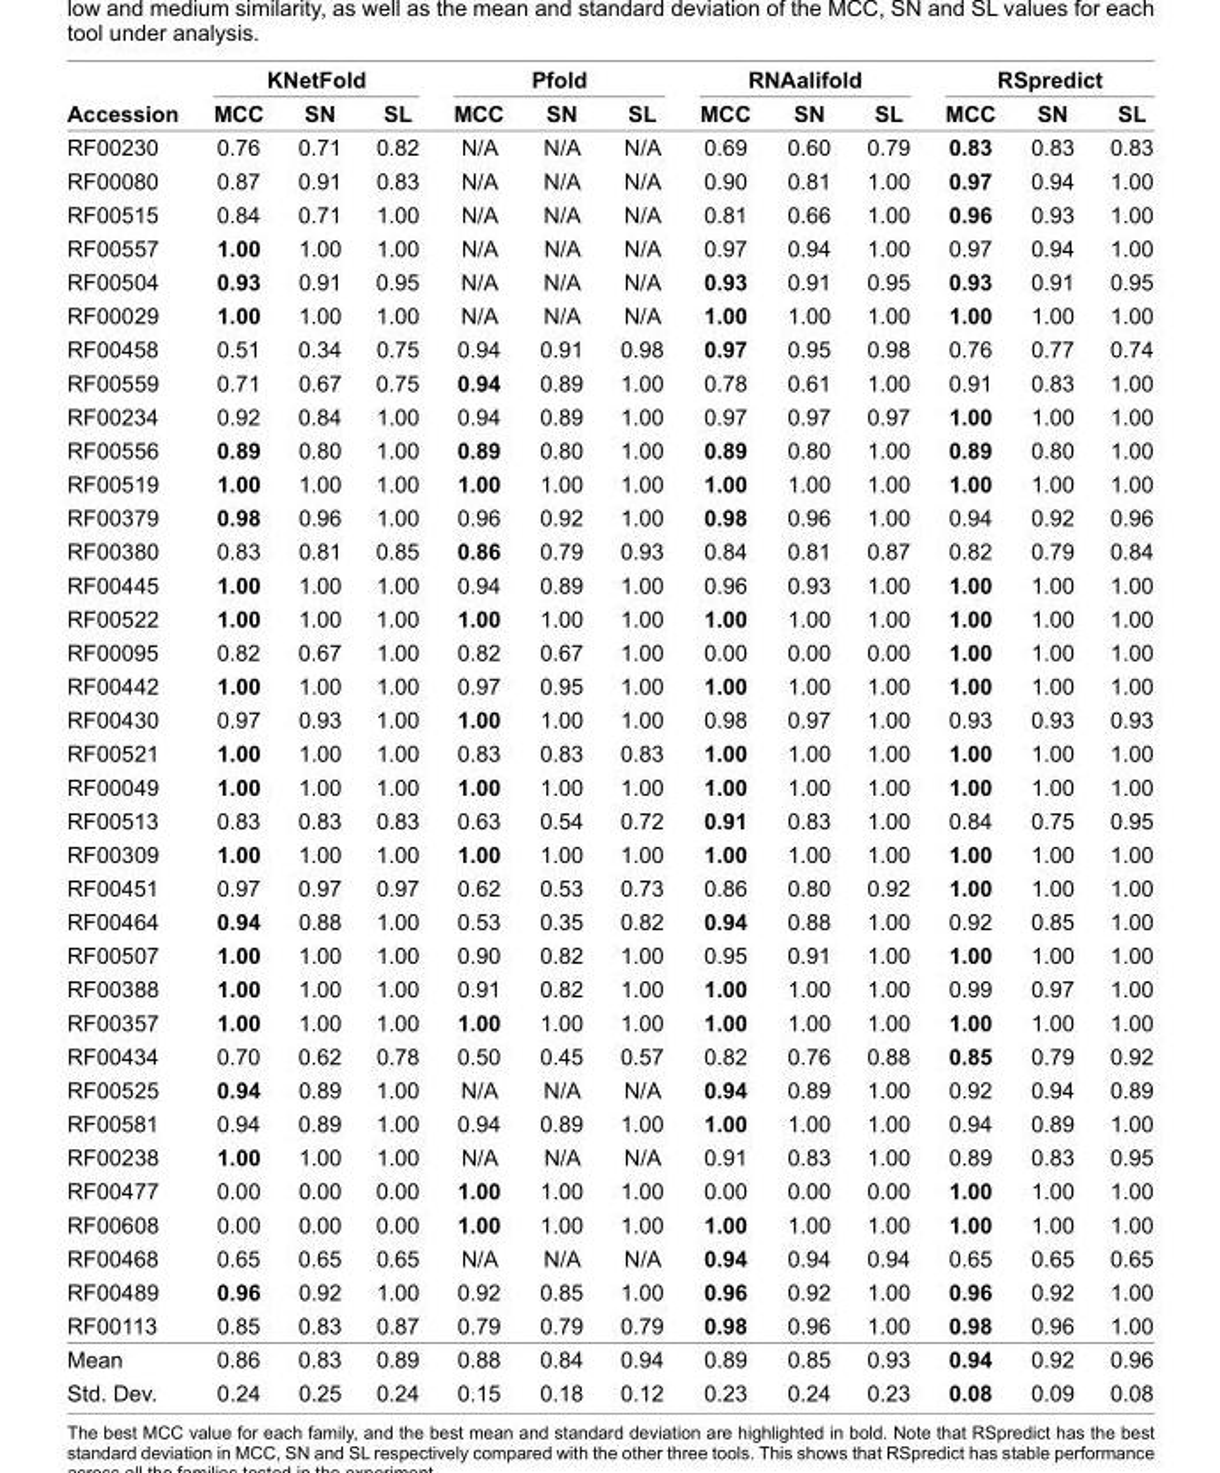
<table><thead><tr><td rowspan="2">Accession</td><td colspan="3">KNetFold</td><td colspan="3">Pfold</td><td colspan="3">RNAalifold</td><td colspan="3">RSpredict</td></tr><tr><td>MCC</td><td>SN</td><td>SL</td><td>MCC</td><td>SN</td><td>SL</td><td>MCC</td><td>SN</td><td>SL</td><td>MCC</td><td>SN</td><td>SL</td></tr></thead><tbody><tr><td>RF00230</td><td>0.76</td><td>0.71</td><td>0.82</td><td>N/A</td><td>N/A</td><td>N/A</td><td>0.69</td><td>0.60</td><td>0.79</td><td>0.83</td><td>0.83</td><td>0.83</td></tr><tr><td>RF00080</td><td>0.87</td><td>0.91</td><td>0.83</td><td>N/A</td><td>N/A</td><td>N/A</td><td>0.90</td><td>0.81</td><td>1.00</td><td>0.97</td><td>0.94</td><td>1.00</td></tr><tr><td>RF00515</td><td>0.84</td><td>0.71</td><td>1.00</td><td>N/A</td><td>N/A</td><td>N/A</td><td>0.81</td><td>0.66</td><td>1.00</td><td>0.96</td><td>0.93</td><td>1.00</td></tr><tr><td>RF00557</td><td>1.00</td><td>1.00</td><td>1.00</td><td>N/A</td><td>N/A</td><td>N/A</td><td>0.97</td><td>0.94</td><td>1.00</td><td>0.97</td><td>0.94</td><td>1.00</td></tr><tr><td>RF00504</td><td>0.93</td><td>0.91</td><td>0.95</td><td>N/A</td><td>N/A</td><td>N/A</td><td>0.93</td><td>0.91</td><td>0.95</td><td>0.93</td><td>0.91</td><td>0.95</td></tr><tr><td>RF00029</td><td>1.00</td><td>1.00</td><td>1.00</td><td>N/A</td><td>N/A</td><td>N/A</td><td>1.00</td><td>1.00</td><td>1.00</td><td>1.00</td><td>1.00</td><td>1.00</td></tr><tr><td>RF00458</td><td>0.51</td><td>0.34</td><td>0.75</td><td>0.94</td><td>0.91</td><td>0.98</td><td>0.97</td><td>0.95</td><td>0.98</td><td>0.76</td><td>0.77</td><td>0.74</td></tr><tr><td>RF00559</td><td>0.71</td><td>0.67</td><td>0.75</td><td>0.94</td><td>0.89</td><td>1.00</td><td>0.78</td><td>0.61</td><td>1.00</td><td>0.91</td><td>0.83</td><td>1.00</td></tr><tr><td>RF00234</td><td>0.92</td><td>0.84</td><td>1.00</td><td>0.94</td><td>0.89</td><td>1.00</td><td>0.97</td><td>0.97</td><td>0.97</td><td>1.00</td><td>1.00</td><td>1.00</td></tr><tr><td>RF00556</td><td>0.89</td><td>0.80</td><td>1.00</td><td>0.89</td><td>0.80</td><td>1.00</td><td>0.89</td><td>0.80</td><td>1.00</td><td>0.89</td><td>0.80</td><td>1.00</td></tr><tr><td>RF00519</td><td>1.00</td><td>1.00</td><td>1.00</td><td>1.00</td><td>1.00</td><td>1.00</td><td>1.00</td><td>1.00</td><td>1.00</td><td>1.00</td><td>1.00</td><td>1.00</td></tr><tr><td>RF00379</td><td>0.98</td><td>0.96</td><td>1.00</td><td>0.96</td><td>0.92</td><td>1.00</td><td>0.98</td><td>0.96</td><td>1.00</td><td>0.94</td><td>0.92</td><td>0.96</td></tr><tr><td>RF00380</td><td>0.83</td><td>0.81</td><td>0.85</td><td>0.86</td><td>0.79</td><td>0.93</td><td>0.84</td><td>0.81</td><td>0.87</td><td>0.82</td><td>0.79</td><td>0.84</td></tr><tr><td>RF00445</td><td>1.00</td><td>1.00</td><td>1.00</td><td>0.94</td><td>0.89</td><td>1.00</td><td>0.96</td><td>0.93</td><td>1.00</td><td>1.00</td><td>1.00</td><td>1.00</td></tr><tr><td>RF00522</td><td>1.00</td><td>1.00</td><td>1.00</td><td>1.00</td><td>1.00</td><td>1.00</td><td>1.00</td><td>1.00</td><td>1.00</td><td>1.00</td><td>1.00</td><td>1.00</td></tr><tr><td>RF00095</td><td>0.82</td><td>0.67</td><td>1.00</td><td>0.82</td><td>0.67</td><td>1.00</td><td>0.00</td><td>0.00</td><td>0.00</td><td>1.00</td><td>1.00</td><td>1.00</td></tr><tr><td>RF00442</td><td>1.00</td><td>1.00</td><td>1.00</td><td>0.97</td><td>0.95</td><td>1.00</td><td>1.00</td><td>1.00</td><td>1.00</td><td>1.00</td><td>1.00</td><td>1.00</td></tr><tr><td>RF00430</td><td>0.97</td><td>0.93</td><td>1.00</td><td>1.00</td><td>1.00</td><td>1.00</td><td>0.98</td><td>0.97</td><td>1.00</td><td>0.93</td><td>0.93</td><td>0.93</td></tr><tr><td>RF00521</td><td>1.00</td><td>1.00</td><td>1.00</td><td>0.83</td><td>0.83</td><td>0.83</td><td>1.00</td><td>1.00</td><td>1.00</td><td>1.00</td><td>1.00</td><td>1.00</td></tr><tr><td>RF00049</td><td>1.00</td><td>1.00</td><td>1.00</td><td>1.00</td><td>1.00</td><td>1.00</td><td>1.00</td><td>1.00</td><td>1.00</td><td>1.00</td><td>1.00</td><td>1.00</td></tr><tr><td>RF00513</td><td>0.83</td><td>0.83</td><td>0.83</td><td>0.63</td><td>0.54</td><td>0.72</td><td>0.91</td><td>0.83</td><td>1.00</td><td>0.84</td><td>0.75</td><td>0.95</td></tr><tr><td>RF00309</td><td>1.00</td><td>1.00</td><td>1.00</td><td>1.00</td><td>1.00</td><td>1.00</td><td>1.00</td><td>1.00</td><td>1.00</td><td>1.00</td><td>1.00</td><td>1.00</td></tr><tr><td>RF00451</td><td>0.97</td><td>0.97</td><td>0.97</td><td>0.62</td><td>0.53</td><td>0.73</td><td>0.86</td><td>0.80</td><td>0.92</td><td>1.00</td><td>1.00</td><td>1.00</td></tr><tr><td>RF00464</td><td>0.94</td><td>0.88</td><td>1.00</td><td>0.53</td><td>0.35</td><td>0.82</td><td>0.94</td><td>0.88</td><td>1.00</td><td>0.92</td><td>0.85</td><td>1.00</td></tr><tr><td>RF00507</td><td>1.00</td><td>1.00</td><td>1.00</td><td>0.90</td><td>0.82</td><td>1.00</td><td>0.95</td><td>0.91</td><td>1.00</td><td>1.00</td><td>1.00</td><td>1.00</td></tr><tr><td>RF00388</td><td>1.00</td><td>1.00</td><td>1.00</td><td>0.91</td><td>0.82</td><td>1.00</td><td>1.00</td><td>1.00</td><td>1.00</td><td>0.99</td><td>0.97</td><td>1.00</td></tr><tr><td>RF00357</td><td>1.00</td><td>1.00</td><td>1.00</td><td>1.00</td><td>1.00</td><td>1.00</td><td>1.00</td><td>1.00</td><td>1.00</td><td>1.00</td><td>1.00</td><td>1.00</td></tr><tr><td>RF00434</td><td>0.70</td><td>0.62</td><td>0.78</td><td>0.50</td><td>0.45</td><td>0.57</td><td>0.82</td><td>0.76</td><td>0.88</td><td>0.85</td><td>0.79</td><td>0.92</td></tr><tr><td>RF00525</td><td>0.94</td><td>0.89</td><td>1.00</td><td>N/A</td><td>N/A</td><td>N/A</td><td>0.94</td><td>0.89</td><td>1.00</td><td>0.92</td><td>0.94</td><td>0.89</td></tr><tr><td>RF00581</td><td>0.94</td><td>0.89</td><td>1.00</td><td>0.94</td><td>0.89</td><td>1.00</td><td>1.00</td><td>1.00</td><td>1.00</td><td>0.94</td><td>0.89</td><td>1.00</td></tr><tr><td>RF00238</td><td>1.00</td><td>1.00</td><td>1.00</td><td>N/A</td><td>N/A</td><td>N/A</td><td>0.91</td><td>0.83</td><td>1.00</td><td>0.89</td><td>0.83</td><td>0.95</td></tr><tr><td>RF00477</td><td>0.00</td><td>0.00</td><td>0.00</td><td>1.00</td><td>1.00</td><td>1.00</td><td>0.00</td><td>0.00</td><td>0.00</td><td>1.00</td><td>1.00</td><td>1.00</td></tr><tr><td>RF00608</td><td>0.00</td><td>0.00</td><td>0.00</td><td>1.00</td><td>1.00</td><td>1.00</td><td>1.00</td><td>1.00</td><td>1.00</td><td>1.00</td><td>1.00</td><td>1.00</td></tr><tr><td>RF00468</td><td>0.65</td><td>0.65</td><td>0.65</td><td>N/A</td><td>N/A</td><td>N/A</td><td>0.94</td><td>0.94</td><td>0.94</td><td>0.65</td><td>0.65</td><td>0.65</td></tr><tr><td>RF00489</td><td>0.96</td><td>0.92</td><td>1.00</td><td>0.92</td><td>0.85</td><td>1.00</td><td>0.96</td><td>0.92</td><td>1.00</td><td>0.96</td><td>0.92</td><td>1.00</td></tr><tr><td>RF00113</td><td>0.85</td><td>0.83</td><td>0.87</td><td>0.79</td><td>0.79</td><td>0.79</td><td>0.98</td><td>0.96</td><td>1.00</td><td>0.98</td><td>0.96</td><td>1.00</td></tr><tr><td>Mean</td><td>0.86</td><td>0.83</td><td>0.89</td><td>0.88</td><td>0.84</td><td>0.94</td><td>0.89</td><td>0.85</td><td>0.93</td><td>0.94</td><td>0.92</td><td>0.96</td></tr><tr><td>Std. Dev.</td><td>0.24</td><td>0.25</td><td>0.24</td><td>0.15</td><td>0.18</td><td>0.12</td><td>0.23</td><td>0.24</td><td>0.23</td><td>0.08</td><td>0.09</td><td>0.08</td></tr></tbody></table>